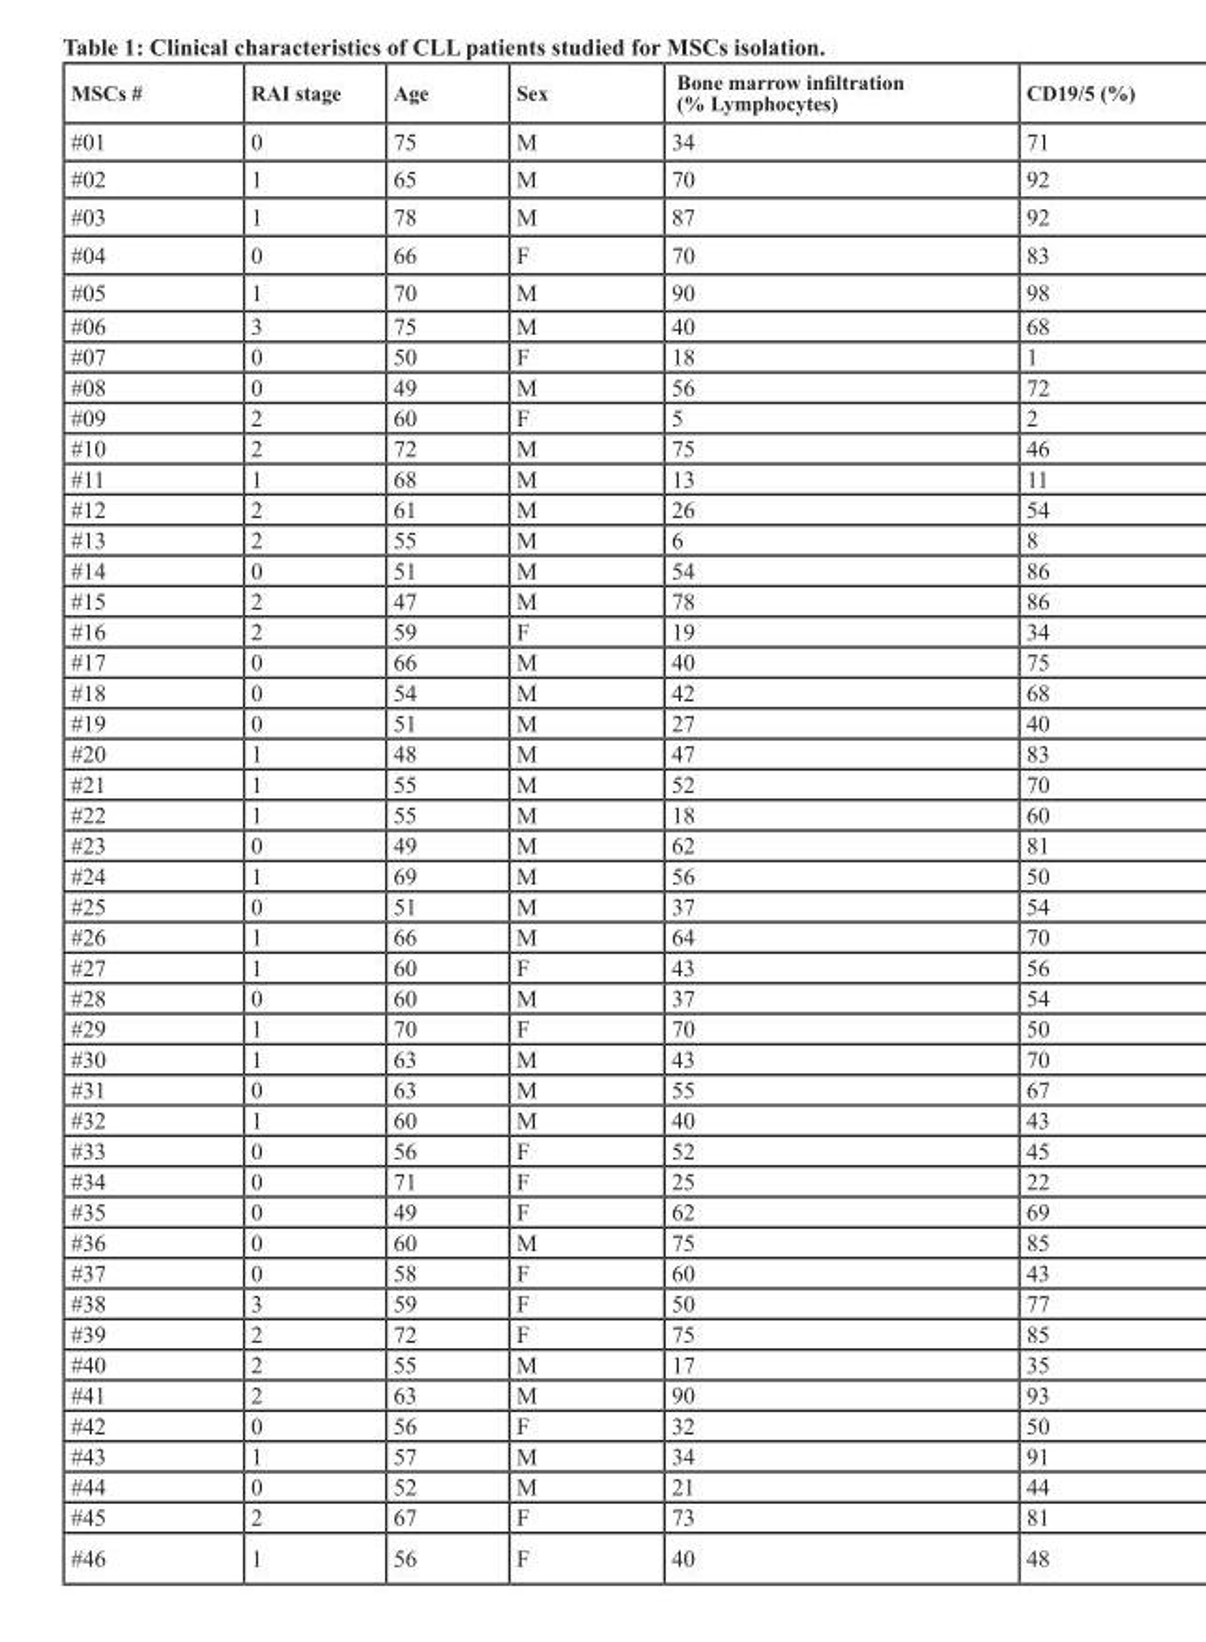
<table><thead><tr><td>MSCs #</td><td>RAI stage</td><td>Age</td><td>Sex</td><td>Bone marrow infiltration (% Lymphocytes)</td><td>CD19/5 (%)</td></tr></thead><tbody><tr><td>#01</td><td>0</td><td>75</td><td>M</td><td>34</td><td>71</td></tr><tr><td>#02</td><td>1</td><td>65</td><td>M</td><td>70</td><td>92</td></tr><tr><td>#03</td><td>1</td><td>78</td><td>M</td><td>87</td><td>92</td></tr><tr><td>#04</td><td>0</td><td>66</td><td>F</td><td>70</td><td>83</td></tr><tr><td>#05</td><td>1</td><td>70</td><td>M</td><td>90</td><td>98</td></tr><tr><td>#06</td><td>3</td><td>75</td><td>M</td><td>40</td><td>68</td></tr><tr><td>#07</td><td>0</td><td>50</td><td>F</td><td>18</td><td>1</td></tr><tr><td>#08</td><td>0</td><td>49</td><td>M</td><td>56</td><td>72</td></tr><tr><td>#09</td><td>2</td><td>60</td><td>F</td><td>5</td><td>2</td></tr><tr><td>#10</td><td>2</td><td>72</td><td>M</td><td>75</td><td>46</td></tr><tr><td>#11</td><td>1</td><td>68</td><td>M</td><td>13</td><td>11</td></tr><tr><td>#12</td><td>2</td><td>61</td><td>M</td><td>26</td><td>54</td></tr><tr><td>#13</td><td>2</td><td>55</td><td>M</td><td>6</td><td>8</td></tr><tr><td>#14</td><td>0</td><td>51</td><td>M</td><td>54</td><td>86</td></tr><tr><td>#15</td><td>2</td><td>47</td><td>M</td><td>78</td><td>86</td></tr><tr><td>#16</td><td>2</td><td>59</td><td>F</td><td>19</td><td>34</td></tr><tr><td>#17</td><td>0</td><td>66</td><td>M</td><td>40</td><td>75</td></tr><tr><td>#18</td><td>0</td><td>54</td><td>M</td><td>42</td><td>68</td></tr><tr><td>#19</td><td>0</td><td>51</td><td>M</td><td>27</td><td>40</td></tr><tr><td>#20</td><td>1</td><td>48</td><td>M</td><td>47</td><td>83</td></tr><tr><td>#21</td><td>1</td><td>55</td><td>M</td><td>52</td><td>70</td></tr><tr><td>#22</td><td>1</td><td>55</td><td>M</td><td>18</td><td>60</td></tr><tr><td>#23</td><td>0</td><td>49</td><td>M</td><td>62</td><td>81</td></tr><tr><td>#24</td><td>1</td><td>69</td><td>M</td><td>56</td><td>50</td></tr><tr><td>#25</td><td>0</td><td>51</td><td>M</td><td>37</td><td>54</td></tr><tr><td>#26</td><td>1</td><td>66</td><td>M</td><td>64</td><td>70</td></tr><tr><td>#27</td><td>1</td><td>60</td><td>F</td><td>43</td><td>56</td></tr><tr><td>#28</td><td>0</td><td>60</td><td>M</td><td>37</td><td>54</td></tr><tr><td>#29</td><td>1</td><td>70</td><td>F</td><td>70</td><td>50</td></tr><tr><td>#30</td><td>1</td><td>63</td><td>M</td><td>43</td><td>70</td></tr><tr><td>#31</td><td>0</td><td>63</td><td>M</td><td>55</td><td>67</td></tr><tr><td>#32</td><td>1</td><td>60</td><td>M</td><td>40</td><td>43</td></tr><tr><td>#33</td><td>0</td><td>56</td><td>F</td><td>52</td><td>45</td></tr><tr><td>#34</td><td>0</td><td>71</td><td>F</td><td>25</td><td>22</td></tr><tr><td>#35</td><td>0</td><td>49</td><td>F</td><td>62</td><td>69</td></tr><tr><td>#36</td><td>0</td><td>60</td><td>M</td><td>75</td><td>85</td></tr><tr><td>#37</td><td>0</td><td>58</td><td>F</td><td>60</td><td>43</td></tr><tr><td>#38</td><td>3</td><td>59</td><td>F</td><td>50</td><td>77</td></tr><tr><td>#39</td><td>2</td><td>72</td><td>F</td><td>75</td><td>85</td></tr><tr><td>#40</td><td>2</td><td>55</td><td>M</td><td>17</td><td>35</td></tr><tr><td>#41</td><td>2</td><td>63</td><td>M</td><td>90</td><td>93</td></tr><tr><td>#42</td><td>0</td><td>56</td><td>F</td><td>32</td><td>50</td></tr><tr><td>#43</td><td>1</td><td>57</td><td>M</td><td>34</td><td>91</td></tr><tr><td>#44</td><td>0</td><td>52</td><td>M</td><td>21</td><td>44</td></tr><tr><td>#45</td><td>2</td><td>67</td><td>F</td><td>73</td><td>81</td></tr><tr><td>#46</td><td>1</td><td>56</td><td>F</td><td>40</td><td>48</td></tr></tbody></table>